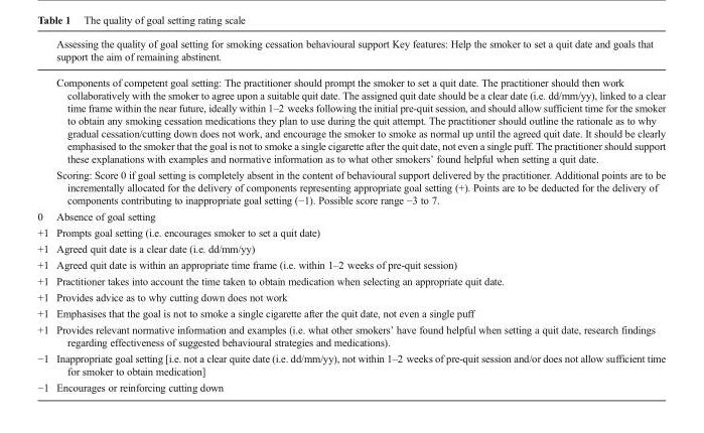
<table><thead><tr><td></td><td>Assessing the quality of goal setting for smoking cessation behavioural support Key features: Help the smoker to set a quit date and goals that support the aim of remaining abstinent.</td></tr></thead><tbody><tr><td></td><td>Components of competent goal setting: The practitioner should prompt the smoker to set a quit date. The practitioner should then work collaboratively with the smoker to agree upon a suitable quit date. The assigned quit date should be a clear date (i.e. dd/mm/yy), linked to a clear time frame within the near future, ideally within 1–2 weeks following the initial pre-quit session, and should allow sufficient time for the smoker to obtain any smoking cessation medications they plan to use during the quit attempt. The practitioner should outline the rationale as to why gradual cessation/cutting down does not work, and encourage the smoker to smoke as normal up until the agreed quit date. It should be clearly emphasised to the smoker that the goal is not to smoke a single cigarette after the quit date, not even a single puff. The practitioner should support these explanations with examples and normative information as to what other smokers’ found helpful when setting a quit date.</td></tr><tr><td></td><td>Scoring: Score 0 if goal setting is completely absent in the content of behavioural support delivered by the practitioner. Additional points are to be incrementally allocated for the delivery of components representing appropriate goal setting (+). Points are to be deducted for the delivery of components contributing to inappropriate goal setting (−1). Possible score range −3 to 7.</td></tr><tr><td>0</td><td>Absence of goal setting</td></tr><tr><td>+1</td><td>Prompts goal setting (i.e. encourages smoker to set a quit date)</td></tr><tr><td>+1</td><td>Agreed quit date is a clear date (i.e. dd/mm/yy)</td></tr><tr><td>+1</td><td>Agreed quit date is within an appropriate time frame (i.e. within 1–2 weeks of pre-quit session)</td></tr><tr><td>+1</td><td>Practitioner takes into account the time taken to obtain medication when selecting an appropriate quit date.</td></tr><tr><td>+1</td><td>Provides advice as to why cutting down does not work</td></tr><tr><td>+1</td><td>Emphasises that the goal is not to smoke a single cigarette after the quit date, not even a single puff</td></tr><tr><td>+1</td><td>Provides relevant normative information and examples (i.e. what other smokers’ have found helpful when setting a quit date, research findings regarding effectiveness of suggested behavioural strategies and medications).</td></tr><tr><td>−1</td><td>Inappropriate goal setting [i.e. not a clear quite date (i.e. dd/mm/yy), not within 1–2 weeks of pre-quit session and/or does not allow sufficient time for smoker to obtain medication]</td></tr><tr><td>−1</td><td>Encourages or reinforcing cutting down</td></tr></tbody></table>